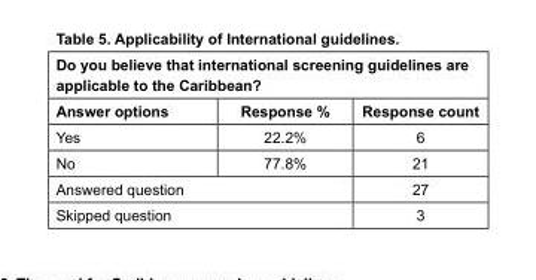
<table><thead><tr><td colspan="3">Do you believe that international screening guidelines are applicable to the Caribbean?</td></tr><tr><td>Answer options</td><td>Response %</td><td>Response count</td></tr></thead><tbody><tr><td>Yes</td><td>22.2%</td><td>6</td></tr><tr><td>No</td><td>77.8%</td><td>21</td></tr><tr><td colspan="2">Answered question</td><td>27</td></tr><tr><td colspan="2">Skipped question</td><td>3</td></tr></tbody></table>